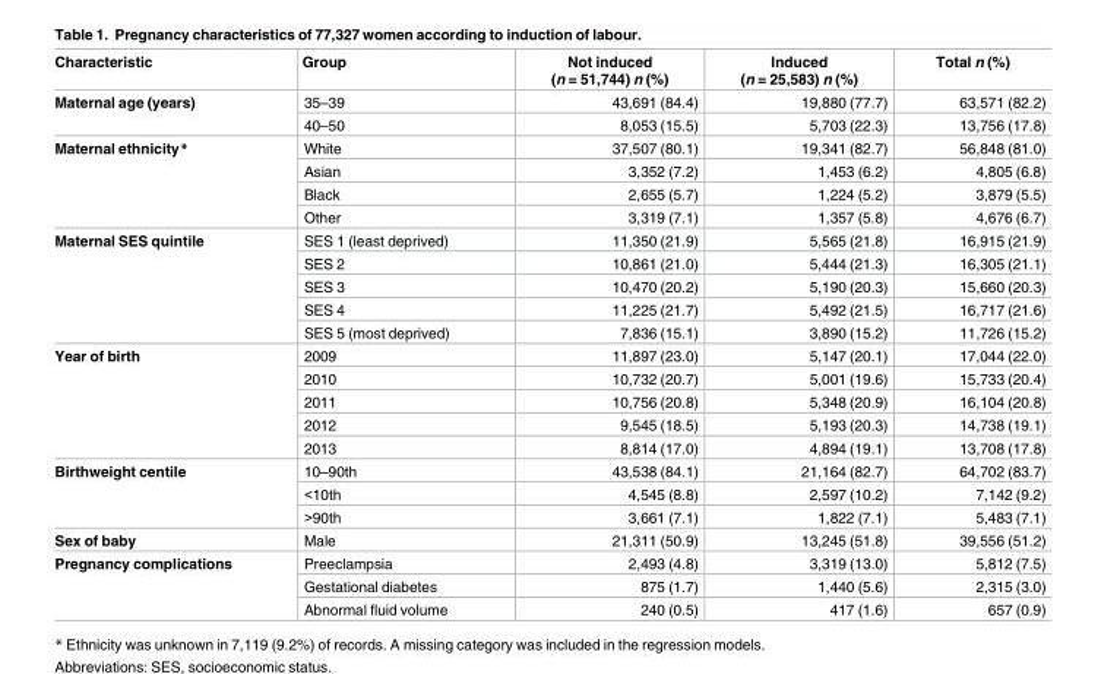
<table><thead><tr><td>Characteristic</td><td>Group</td><td>Not induced (n = 51,744) n (%)</td><td>Induced (n = 25,583) n (%)</td><td>Total n (%)</td></tr></thead><tbody><tr><td rowspan="2">Maternal age (years)</td><td>35–39</td><td>43,691 (84.4)</td><td>19,880 (77.7)</td><td>63,571 (82.2)</td></tr><tr><td>40–50</td><td>8,053 (15.5)</td><td>5,703 (22.3)</td><td>13,756 (17.8)</td></tr><tr><td rowspan="4">Maternal ethnicity*</td><td>White</td><td>37,507 (80.1)</td><td>19,341 (82.7)</td><td>56,848 (81.0)</td></tr><tr><td>Asian</td><td>3,352 (7.2)</td><td>1,453 (6.2)</td><td>4,805 (6.8)</td></tr><tr><td>Black</td><td>2,655 (5.7)</td><td>1,224 (5.2)</td><td>3,879 (5.5)</td></tr><tr><td>Other</td><td>3,319 (7.1)</td><td>1,357 (5.8)</td><td>4,676 (6.7)</td></tr><tr><td rowspan="5">Maternal SES quintile</td><td>SES 1 (least deprived)</td><td>11,350 (21.9)</td><td>5,565 (21.8)</td><td>16,915 (21.9)</td></tr><tr><td>SES 2</td><td>10,861 (21.0)</td><td>5,444 (21.3)</td><td>16,305 (21.1)</td></tr><tr><td>SES 3</td><td>10,470 (20.2)</td><td>5,190 (20.3)</td><td>15,660 (20.3)</td></tr><tr><td>SES 4</td><td>11,225 (21.7)</td><td>5,492 (21.5)</td><td>16,717 (21.6)</td></tr><tr><td>SES 5 (most deprived)</td><td>7,836 (15.1)</td><td>3,890 (15.2)</td><td>11,726 (15.2)</td></tr><tr><td rowspan="5">Year of birth</td><td>2009</td><td>11,897 (23.0)</td><td>5,147 (20.1)</td><td>17,044 (22.0)</td></tr><tr><td>2010</td><td>10,732 (20.7)</td><td>5,001 (19.6)</td><td>15,733 (20.4)</td></tr><tr><td>2011</td><td>10,756 (20.8)</td><td>5,348 (20.9)</td><td>16,104 (20.8)</td></tr><tr><td>2012</td><td>9,545 (18.5)</td><td>5,193 (20.3)</td><td>14,738 (19.1)</td></tr><tr><td>2013</td><td>8,814 (17.0)</td><td>4,894 (19.1)</td><td>13,708 (17.8)</td></tr><tr><td rowspan="3">Birthweight centile</td><td>10–90th</td><td>43,538 (84.1)</td><td>21,164 (82.7)</td><td>64,702 (83.7)</td></tr><tr><td>&lt;10th</td><td>4,545 (8.8)</td><td>2,597 (10.2)</td><td>7,142 (9.2)</td></tr><tr><td>&gt;90th</td><td>3,661 (7.1)</td><td>1,822 (7.1)</td><td>5,483 (7.1)</td></tr><tr><td>Sex of baby</td><td>Male</td><td>21,311 (50.9)</td><td>13,245 (51.8)</td><td>39,556 (51.2)</td></tr><tr><td rowspan="3">Pregnancy complications</td><td>Preeclampsia</td><td>2,493 (4.8)</td><td>3,319 (13.0)</td><td>5,812 (7.5)</td></tr><tr><td>Gestational diabetes</td><td>875 (1.7)</td><td>1,440 (5.6)</td><td>2,315 (3.0)</td></tr><tr><td>Abnormal fluid volume</td><td>240 (0.5)</td><td>417 (1.6)</td><td>657 (0.9)</td></tr></tbody></table>